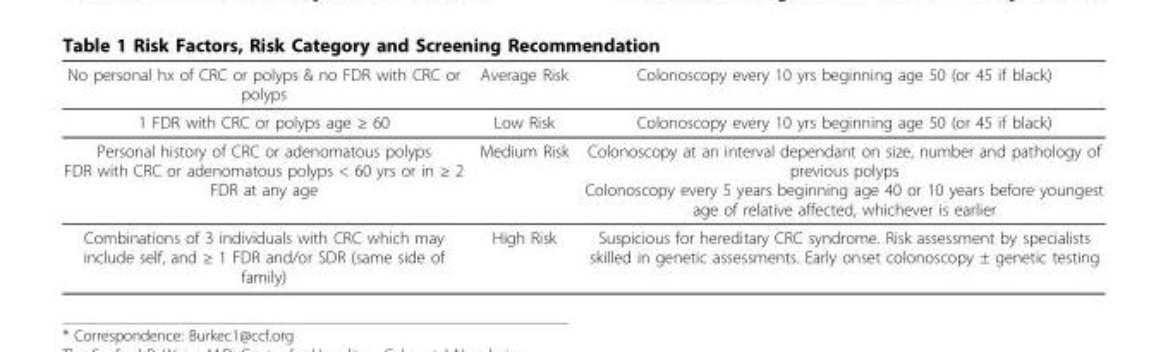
<table><thead><tr><td>No personal hx of CRC or polyps &amp; no FDR with CRC or polyps</td><td>Average Risk</td><td>Colonoscopy every 10 yrs beginning age 50 (or 45 if black)</td></tr></thead><tbody><tr><td>1 FDR with CRC or polyps age ≥ 60</td><td>Low Risk</td><td>Colonoscopy every 10 yrs beginning age 50 (or 45 if black)</td></tr><tr><td>Personal history of CRC or adenomatous polyps FDR with CRC or adenomatous polyps &lt; 60 yrs or in ≥ 2 FDR at any age</td><td>Medium Risk</td><td>Colonoscopy at an interval dependant on size, number and pathology of previous polyps Colonoscopy every 5 years beginning age 40 or 10 years before youngest age of relative affected, whichever is earlier</td></tr><tr><td>Combinations of 3 individuals with CRC which may include self, and ≥ 1 FDR and/or SDR (same side of family)</td><td>High Risk</td><td>Suspicious for hereditary CRC syndrome. Risk assessment by specialists skilled in genetic assessments. Early onset colonoscopy ± genetic testing</td></tr></tbody></table>